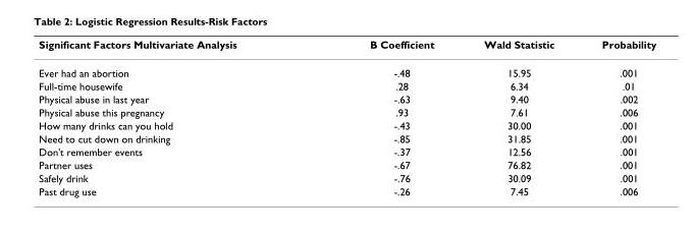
<table><thead><tr><td>Significant Factors Multivariate Analysis</td><td>B Coefficient</td><td>Wald Statistic</td><td>Probability</td></tr></thead><tbody><tr><td>Ever had an abortion</td><td>-.48</td><td>15.95</td><td>.001</td></tr><tr><td>Full-time housewife</td><td>.28</td><td>6.34</td><td>.01</td></tr><tr><td>Physical abuse in last year</td><td>-.63</td><td>9.40</td><td>.002</td></tr><tr><td>Physical abuse this pregnancy</td><td>.93</td><td>7.61</td><td>.006</td></tr><tr><td>How many drinks can you hold</td><td>-.43</td><td>30.00</td><td>.001</td></tr><tr><td>Need to cut down on drinking</td><td>-.85</td><td>31.85</td><td>.001</td></tr><tr><td>Don&#x27;t remember events</td><td>-.37</td><td>12.56</td><td>.001</td></tr><tr><td>Partner uses</td><td>-.67</td><td>76.82</td><td>.001</td></tr><tr><td>Safely drink</td><td>-.76</td><td>30.09</td><td>.001</td></tr><tr><td>Past drug use</td><td>-.26</td><td>7.45</td><td>.006</td></tr></tbody></table>